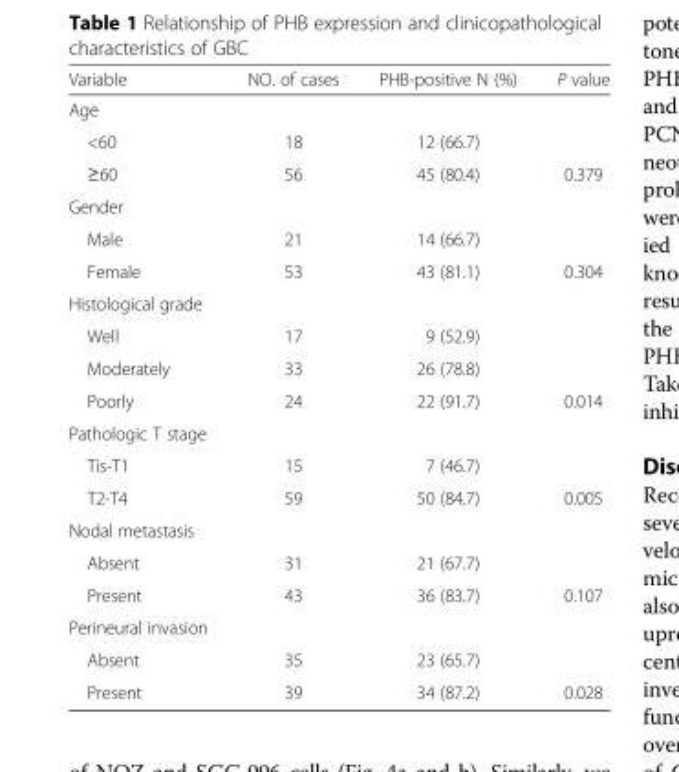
<table><thead><tr><td>Variable</td><td>NO. of cases</td><td>PHB-positive N (%)</td><td>P value</td></tr></thead><tbody><tr><td colspan="4">Age</td></tr><tr><td>&lt;60</td><td>18</td><td>12 (66.7)</td><td></td></tr><tr><td>≥60</td><td>56</td><td>45 (80.4)</td><td>0.379</td></tr><tr><td colspan="4">Gender</td></tr><tr><td>Male</td><td>21</td><td>14 (66.7)</td><td></td></tr><tr><td>Female</td><td>53</td><td>43 (81.1)</td><td>0.304</td></tr><tr><td colspan="4">Histological grade</td></tr><tr><td>Well</td><td>17</td><td>9 (52.9)</td><td></td></tr><tr><td>Moderately</td><td>33</td><td>26 (78.8)</td><td></td></tr><tr><td>Poorly</td><td>24</td><td>22 (91.7)</td><td>0.014</td></tr><tr><td colspan="4">Pathologic T stage</td></tr><tr><td>Tis-T1</td><td>15</td><td>7 (46.7)</td><td></td></tr><tr><td>T2-T4</td><td>59</td><td>50 (84.7)</td><td>0.005</td></tr><tr><td colspan="4">Nodal metastasis</td></tr><tr><td>Absent</td><td>31</td><td>21 (67.7)</td><td></td></tr><tr><td>Present</td><td>43</td><td>36 (83.7)</td><td>0.107</td></tr><tr><td colspan="4">Perineural invasion</td></tr><tr><td>Absent</td><td>35</td><td>23 (65.7)</td><td></td></tr><tr><td>Present</td><td>39</td><td>34 (87.2)</td><td>0.028</td></tr></tbody></table>